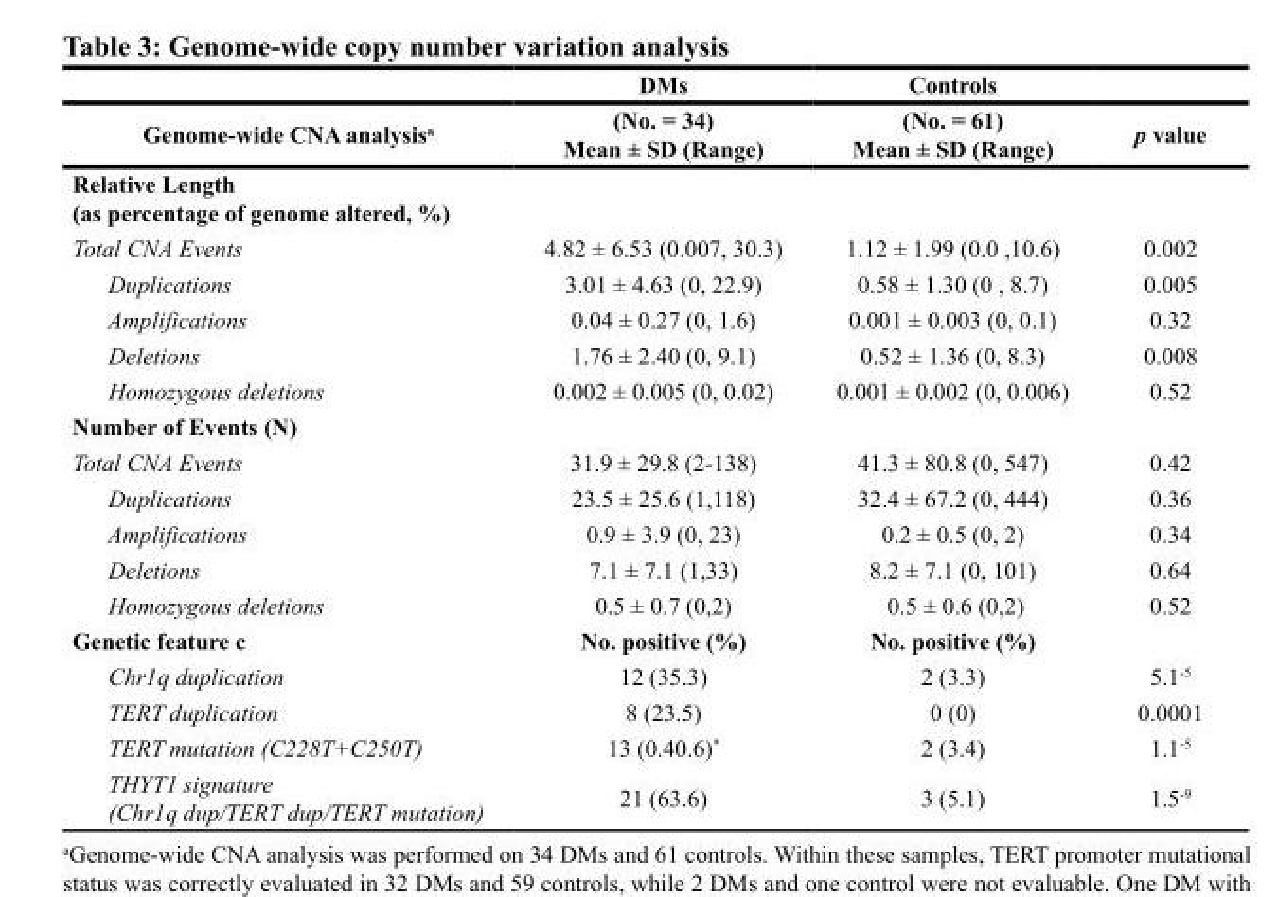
<table><thead><tr><td rowspan="2">Genome-wide CNA analysis<sup>a</sup></td><td rowspan="2">DMs (No. = 34) Mean ± SD (Range)</td><td rowspan="2">Controls (No. = 61) Mean ± SD (Range)</td><td rowspan="2">p value</td></tr><tr></tr></thead><tbody><tr><td colspan="4">Relative Length (as percentage of genome altered, %)</td></tr><tr><td>Total CNA Events</td><td>4.82 ± 6.53 (0.007, 30.3)</td><td>1.12 ± 1.99 (0.0 ,10.6)</td><td>0.002</td></tr><tr><td>Duplications</td><td>3.01 ± 4.63 (0, 22.9)</td><td>0.58 ± 1.30 (0 , 8.7)</td><td>0.005</td></tr><tr><td>Amplifications</td><td>0.04 ± 0.27 (0, 1.6)</td><td>0.001 ± 0.003 (0, 0.1)</td><td>0.32</td></tr><tr><td>Deletions</td><td>1.76 ± 2.40 (0, 9.1)</td><td>0.52 ± 1.36 (0, 8.3)</td><td>0.008</td></tr><tr><td>Homozygous deletions</td><td>0.002 ± 0.005 (0, 0.02)</td><td>0.001 ± 0.002 (0, 0.006)</td><td>0.52</td></tr><tr><td colspan="4">Number of Events (N)</td></tr><tr><td>Total CNA Events</td><td>31.9 ± 29.8 (2-138)</td><td>41.3 ± 80.8 (0, 547)</td><td>0.42</td></tr><tr><td>Duplications</td><td>23.5 ± 25.6 (1,118)</td><td>32.4 ± 67.2 (0, 444)</td><td>0.36</td></tr><tr><td>Amplifications</td><td>0.9 ± 3.9 (0, 23)</td><td>0.2 ± 0.5 (0, 2)</td><td>0.34</td></tr><tr><td>Deletions</td><td>7.1 ± 7.1 (1,33)</td><td>8.2 ± 7.1 (0, 101)</td><td>0.64</td></tr><tr><td>Homozygous deletions</td><td>0.5 ± 0.7 (0,2)</td><td>0.5 ± 0.6 (0,2)</td><td>0.52</td></tr><tr><td>Genetic feature c</td><td>No. positive (%)</td><td>No. positive (%)</td><td></td></tr><tr><td>Chr1q duplication</td><td>12 (35.3)</td><td>2 (3.3)</td><td>5.1<sup>-5</sup></td></tr><tr><td>TERT duplication</td><td>8 (23.5)</td><td>0 (0)</td><td>0.0001</td></tr><tr><td>TERT mutation (C228T+C250T)</td><td>13 (0.40.6)*</td><td>2 (3.4)</td><td>1.1<sup>-5</sup></td></tr><tr><td>THYT1 signature (Chr1q dup/TERT dup/TERT mutation)</td><td>21 (63.6)</td><td>3 (5.1)</td><td>1.5<sup>-9</sup></td></tr></tbody></table>